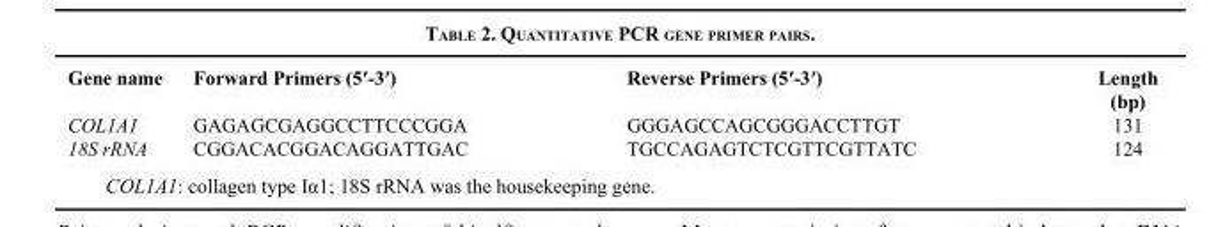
<table><thead><tr><td>Gene name</td><td>Forward Primers (5′-3′)</td><td>Reverse Primers (5′-3′)</td><td>Length (bp)</td></tr></thead><tbody><tr><td>COL1A1</td><td>GAGAGCGAGGCCTTCCCGGA</td><td>GGGAGCCAGCGGGACCTTGT</td><td>131</td></tr><tr><td>18S rRNA</td><td>CGGACACGGACAGGATTGAC</td><td>TGCCAGAGTCTCGTTCGTTATC</td><td>124</td></tr></tbody></table>